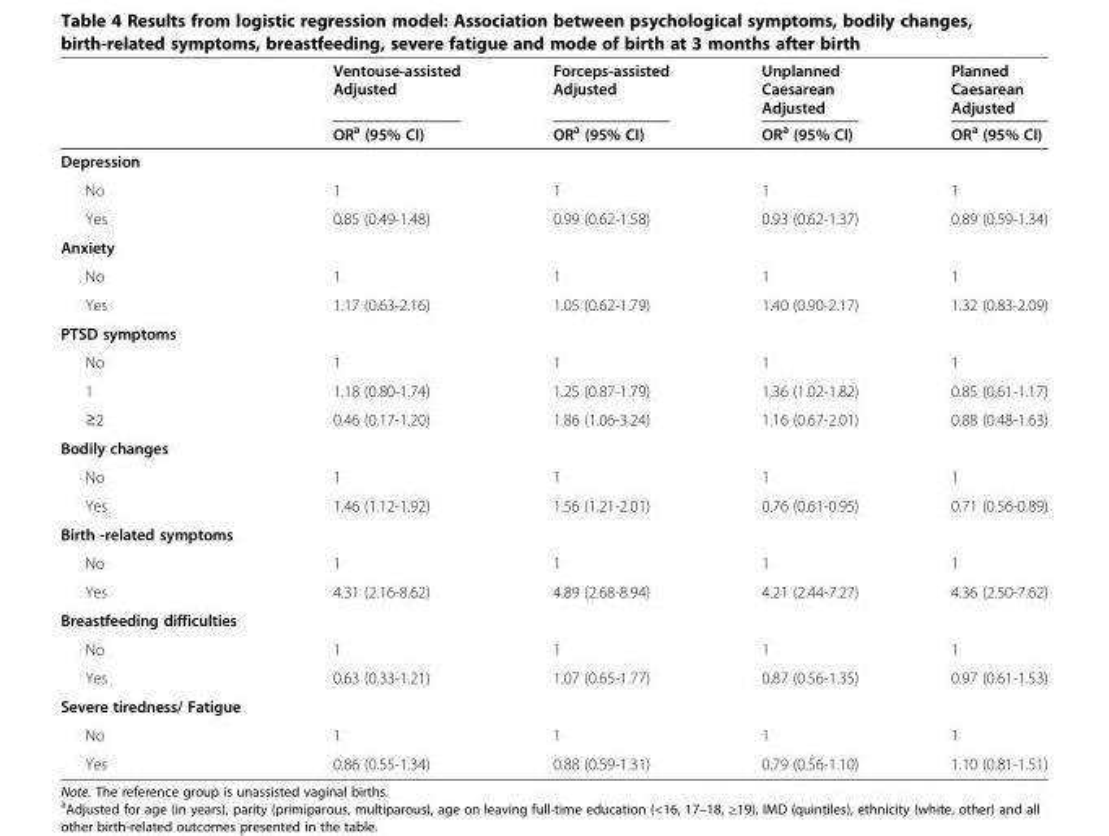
<table><thead><tr><td rowspan="2"></td><td rowspan="2">Ventouse-assisted Adjusted OR<sup>a</sup> (95% CI)</td><td rowspan="2">Forceps-assisted Adjusted OR<sup>a</sup> (95% CI)</td><td rowspan="2">Unplanned Caesarean Adjusted OR<sup>a</sup> (95% CI)</td><td rowspan="2">Planned Caesarean Adjusted OR<sup>a</sup> (95% CI)</td></tr><tr></tr></thead><tbody><tr><td colspan="5">Depression</td></tr><tr><td>No</td><td>1</td><td>1</td><td>1</td><td>1</td></tr><tr><td>Yes</td><td>0.85 (0.49-1.48)</td><td>0.99 (0.62-1.58)</td><td>0.93 (0.62-1.37)</td><td>0.89 (0.59-1.34)</td></tr><tr><td colspan="5">Anxiety</td></tr><tr><td>No</td><td>1</td><td>1</td><td>1</td><td>1</td></tr><tr><td>Yes</td><td>1.17 (0.63-2.16)</td><td>1.05 (0.62-1.79)</td><td>1.40 (0.90-2.17)</td><td>1.32 (0.83-2.09)</td></tr><tr><td colspan="5">PTSD symptoms</td></tr><tr><td>No</td><td>1</td><td>1</td><td>1</td><td>1</td></tr><tr><td>1</td><td>1.18 (0.80-1.74)</td><td>1.25 (0.87-1.79)</td><td>1.36 (1.02-1.82)</td><td>0.85 (0.61-1.17)</td></tr><tr><td>≥2</td><td>0.46 (0.17-1.20)</td><td>1.86 (1.06-3.24)</td><td>1.16 (0.67-2.01)</td><td>0.88 (0.48-1.63)</td></tr><tr><td colspan="5">Bodily changes</td></tr><tr><td>No</td><td>1</td><td>1</td><td>1</td><td>1</td></tr><tr><td>Yes</td><td>1.46 (1.12-1.92)</td><td>1.56 (1.21-2.01)</td><td>0.76 (0.61-0.95)</td><td>0.71 (0.56-0.89)</td></tr><tr><td colspan="5">Birth -related symptoms</td></tr><tr><td>No</td><td>1</td><td>1</td><td>1</td><td>1</td></tr><tr><td>Yes</td><td>4.31 (2.16-8.62)</td><td>4.89 (2.68-8.94)</td><td>4.21 (2.44-7.27)</td><td>4.36 (2.50-7.62)</td></tr><tr><td colspan="5">Breastfeeding difficulties</td></tr><tr><td>No</td><td>1</td><td>1</td><td>1</td><td>1</td></tr><tr><td>Yes</td><td>0.63 (0.33-1.21)</td><td>1.07 (0.65-1.77)</td><td>0.87 (0.56-1.35)</td><td>0.97 (0.61-1.53)</td></tr><tr><td colspan="5">Severe tiredness/ Fatigue</td></tr><tr><td>No</td><td>1</td><td>1</td><td>1</td><td>1</td></tr><tr><td>Yes</td><td>0.86 (0.55-1.34)</td><td>0.88 (0.59-1.31)</td><td>0.79 (0.56-1.10)</td><td>1.10 (0.81-1.51)</td></tr></tbody></table>